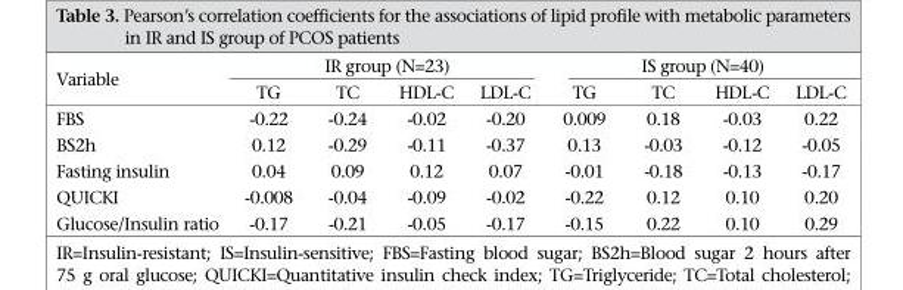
<table><thead><tr><td rowspan="2">Variable</td><td colspan="4">IR group (N=23)</td><td colspan="4">IS group (N=40)</td></tr><tr><td>TG</td><td>TC</td><td>HDL-C</td><td>LDL-C</td><td>TG</td><td>TC</td><td>HDL-C</td><td>LDL-C</td></tr></thead><tbody><tr><td>FBS</td><td>-0.22</td><td>-0.24</td><td>-0.02</td><td>-0.20</td><td>0.009</td><td>0.18</td><td>-0.03</td><td>0.22</td></tr><tr><td>BS2h</td><td>0.12</td><td>-0.29</td><td>-0.11</td><td>-0.37</td><td>0.13</td><td>-0.03</td><td>-0.12</td><td>-0.05</td></tr><tr><td>Fasting insulin</td><td>0.04</td><td>0.09</td><td>0.12</td><td>0.07</td><td>-0.01</td><td>-0.18</td><td>-0.13</td><td>-0.17</td></tr><tr><td>QUICKI</td><td>-0.008</td><td>-0.04</td><td>-0.09</td><td>-0.02</td><td>-0.22</td><td>0.12</td><td>0.10</td><td>0.20</td></tr><tr><td>Glucose/Insulin ratio</td><td>-0.17</td><td>-0.21</td><td>-0.05</td><td>-0.17</td><td>-0.15</td><td>0.22</td><td>0.10</td><td>0.29</td></tr></tbody></table>